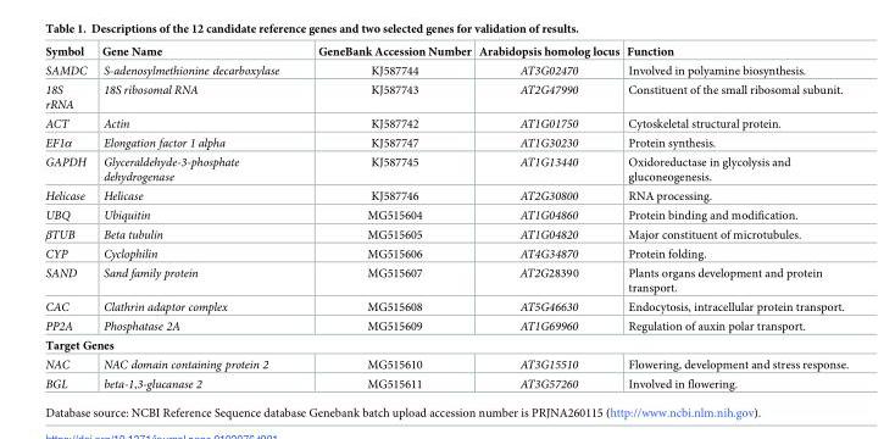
<table><thead><tr><td>Symbol</td><td>Gene Name</td><td>GeneBank Accession Number</td><td>Arabidopsis homolog locus</td><td>Function</td></tr></thead><tbody><tr><td>SAMDC</td><td>S-adenosylmethionine decarboxylase</td><td>KJ587744</td><td>AT3G02470</td><td>Involved in polyamine biosynthesis.</td></tr><tr><td>18S rRNA</td><td>18S ribosomal RNA</td><td>KJ587743</td><td>AT2G47990</td><td>Constituent of the small ribosomal subunit.</td></tr><tr><td>ACT</td><td>Actin</td><td>KJ587742</td><td>AT1G01750</td><td>Cytoskeletal structural protein.</td></tr><tr><td>EF1α</td><td>Elongation factor 1 alpha</td><td>KJ587747</td><td>AT1G30230</td><td>Protein synthesis.</td></tr><tr><td>GAPDH</td><td>Glyceraldehyde-3-phosphate dehydrogenase</td><td>KJ587745</td><td>AT1G13440</td><td>Oxidoreductase in glycolysis and gluconeogenesis.</td></tr><tr><td>Helicase</td><td>Helicase</td><td>KJ587746</td><td>AT2G30800</td><td>RNA processing.</td></tr><tr><td>UBQ</td><td>Ubiquitin</td><td>MG515604</td><td>AT1G04860</td><td>Protein binding and modification.</td></tr><tr><td>βTUB</td><td>Beta tubulin</td><td>MG515605</td><td>AT1G04820</td><td>Major constituent of microtubules.</td></tr><tr><td>CYP</td><td>Cyclophilin</td><td>MG515606</td><td>AT4G34870</td><td>Protein folding.</td></tr><tr><td>SAND</td><td>Sand family protein</td><td>MG515607</td><td>AT2G28390</td><td>Plants organs development and protein transport.</td></tr><tr><td>CAC</td><td>Clathrin adaptor complex</td><td>MG515608</td><td>AT5G46630</td><td>Endocytosis, intracellular protein transport.</td></tr><tr><td>PP2A</td><td>Phosphatase 2A</td><td>MG515609</td><td>AT1G69960</td><td>Regulation of auxin polar transport.</td></tr><tr><td colspan="5">Target Genes</td></tr><tr><td>NAC</td><td>NAC domain containing protein 2</td><td>MG515610</td><td>AT3G15510</td><td>Flowering, development and stress response.</td></tr><tr><td>BGL</td><td>beta-1,3-glucanase 2</td><td>MG515611</td><td>AT3G57260</td><td>Involved in flowering.</td></tr></tbody></table>